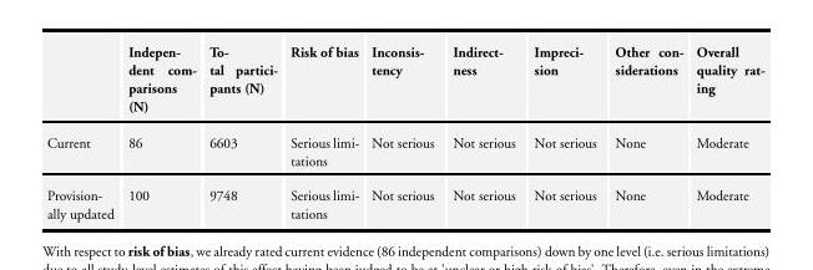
<table><thead><tr><td></td><td>Indepen- dent com- parisons (N)</td><td>To- tal partici- pants (N)</td><td>Risk of bias</td><td>Inconsis- tency</td><td>Indirect- ness</td><td>Impreci- sion</td><td>Other con- siderations</td><td>Overall quality rat- ing</td></tr></thead><tbody><tr><td>Current</td><td>86</td><td>6603</td><td>Serious limi- tations</td><td>Not serious</td><td>Not serious</td><td>Not serious</td><td>None</td><td>Moderate</td></tr><tr><td>Provision- ally updated</td><td>100</td><td>9748</td><td>Serious limi- tations</td><td>Not serious</td><td>Not serious</td><td>Not serious</td><td>None</td><td>Moderate</td></tr></tbody></table>